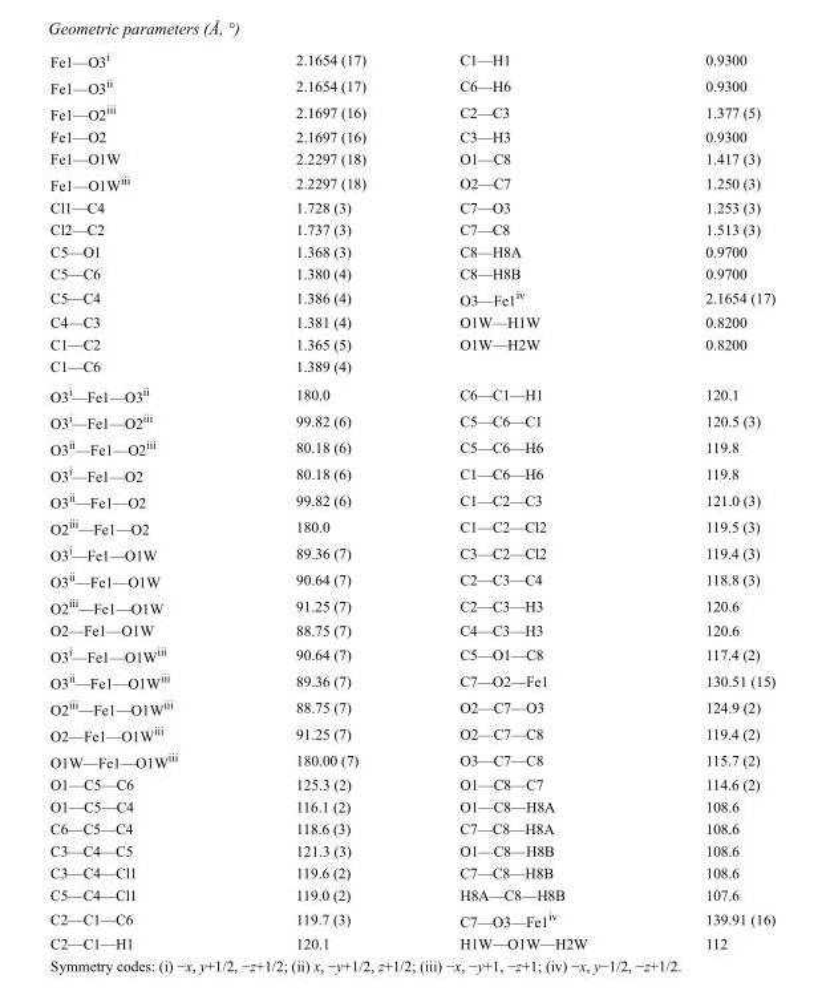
<table><tbody><tr><td>Fe1—O3<sup>i</sup></td><td>2.1654 (17)</td><td>C1—H1</td><td>0.9300</td></tr><tr><td>Fe1—O3<sup>ii</sup></td><td>2.1654 (17)</td><td>C6—H6</td><td>0.9300</td></tr><tr><td>Fe1—O2<sup>iii</sup></td><td>2.1697 (16)</td><td>C2—C3</td><td>1.377 (5)</td></tr><tr><td>Fe1—O2</td><td>2.1697 (16)</td><td>C3—H3</td><td>0.9300</td></tr><tr><td>Fe1—O1W</td><td>2.2297 (18)</td><td>O1—C8</td><td>1.417 (3)</td></tr><tr><td>Fe1—O1W<sup>iii</sup></td><td>2.2297 (18)</td><td>O2—C7</td><td>1.250 (3)</td></tr><tr><td>Cl1—C4</td><td>1.728 (3)</td><td>C7—O3</td><td>1.253 (3)</td></tr><tr><td>Cl2—C2</td><td>1.737 (3)</td><td>C7—C8</td><td>1.513 (3)</td></tr><tr><td>C5—O1</td><td>1.368 (3)</td><td>C8—H8A</td><td>0.9700</td></tr><tr><td>C5—C6</td><td>1.380 (4)</td><td>C8—H8B</td><td>0.9700</td></tr><tr><td>C5—C4</td><td>1.386 (4)</td><td>O3—Fe1<sup>iv</sup></td><td>2.1654 (17)</td></tr><tr><td>C4—C3</td><td>1.381 (4)</td><td>O1W—H1W</td><td>0.8200</td></tr><tr><td>C1—C2</td><td>1.365 (5)</td><td>O1W—H2W</td><td>0.8200</td></tr><tr><td>C1—C6</td><td>1.389 (4)</td><td></td><td></td></tr><tr><td>O3<sup>i</sup>—Fe1—O3<sup>ii</sup></td><td>180.0</td><td>C6—C1—H1</td><td>120.1</td></tr><tr><td>O3<sup>i</sup>—Fe1—O2<sup>iii</sup></td><td>99.82 (6)</td><td>C5—C6—C1</td><td>120.5 (3)</td></tr><tr><td>O3<sup>ii</sup>—Fe1—O2<sup>iii</sup></td><td>80.18 (6)</td><td>C5—C6—H6</td><td>119.8</td></tr><tr><td>O3<sup>i</sup>—Fe1—O2</td><td>80.18 (6)</td><td>C1—C6—H6</td><td>119.8</td></tr><tr><td>O3<sup>ii</sup>—Fe1—O2</td><td>99.82 (6)</td><td>C1—C2—C3</td><td>121.0 (3)</td></tr><tr><td>O2<sup>iii</sup>—Fe1—O2</td><td>180.0</td><td>C1—C2—Cl2</td><td>119.5 (3)</td></tr><tr><td>O3<sup>i</sup>—Fe1—O1W</td><td>89.36 (7)</td><td>C3—C2—Cl2</td><td>119.4 (3)</td></tr><tr><td>O3<sup>ii</sup>—Fe1—O1W</td><td>90.64 (7)</td><td>C2—C3—C4</td><td>118.8 (3)</td></tr><tr><td>O2<sup>iii</sup>—Fe1—O1W</td><td>91.25 (7)</td><td>C2—C3—H3</td><td>120.6</td></tr><tr><td>O2—Fe1—O1W</td><td>88.75 (7)</td><td>C4—C3—H3</td><td>120.6</td></tr><tr><td>O3<sup>i</sup>—Fe1—O1W<sup>iii</sup></td><td>90.64 (7)</td><td>C5—O1—C8</td><td>117.4 (2)</td></tr><tr><td>O3<sup>ii</sup>—Fe1—O1W<sup>iii</sup></td><td>89.36 (7)</td><td>C7—O2—Fe1</td><td>130.51 (15)</td></tr><tr><td>O2<sup>iii</sup>—Fe1—O1W<sup>iii</sup></td><td>88.75 (7)</td><td>O2—C7—O3</td><td>124.9 (2)</td></tr><tr><td>O2—Fe1—O1W<sup>iii</sup></td><td>91.25 (7)</td><td>O2—C7—C8</td><td>119.4 (2)</td></tr><tr><td>O1W—Fe1—O1W<sup>iii</sup></td><td>180.00 (7)</td><td>O3—C7—C8</td><td>115.7 (2)</td></tr><tr><td>O1—C5—C6</td><td>125.3 (2)</td><td>O1—C8—C7</td><td>114.6 (2)</td></tr><tr><td>O1—C5—C4</td><td>116.1 (2)</td><td>O1—C8—H8A</td><td>108.6</td></tr><tr><td>C6—C5—C4</td><td>118.6 (3)</td><td>C7—C8—H8A</td><td>108.6</td></tr><tr><td>C3—C4—C5</td><td>121.3 (3)</td><td>O1—C8—H8B</td><td>108.6</td></tr><tr><td>C3—C4—Cl1</td><td>119.6 (2)</td><td>C7—C8—H8B</td><td>108.6</td></tr><tr><td>C5—C4—Cl1</td><td>119.0 (2)</td><td>H8A—C8—H8B</td><td>107.6</td></tr><tr><td>C2—C1—C6</td><td>119.7 (3)</td><td>C7—O3—Fe1<sup>iv</sup></td><td>139.91 (16)</td></tr><tr><td>C2—C1—H1</td><td>120.1</td><td>H1W—O1W—H2W</td><td>112</td></tr></tbody></table>